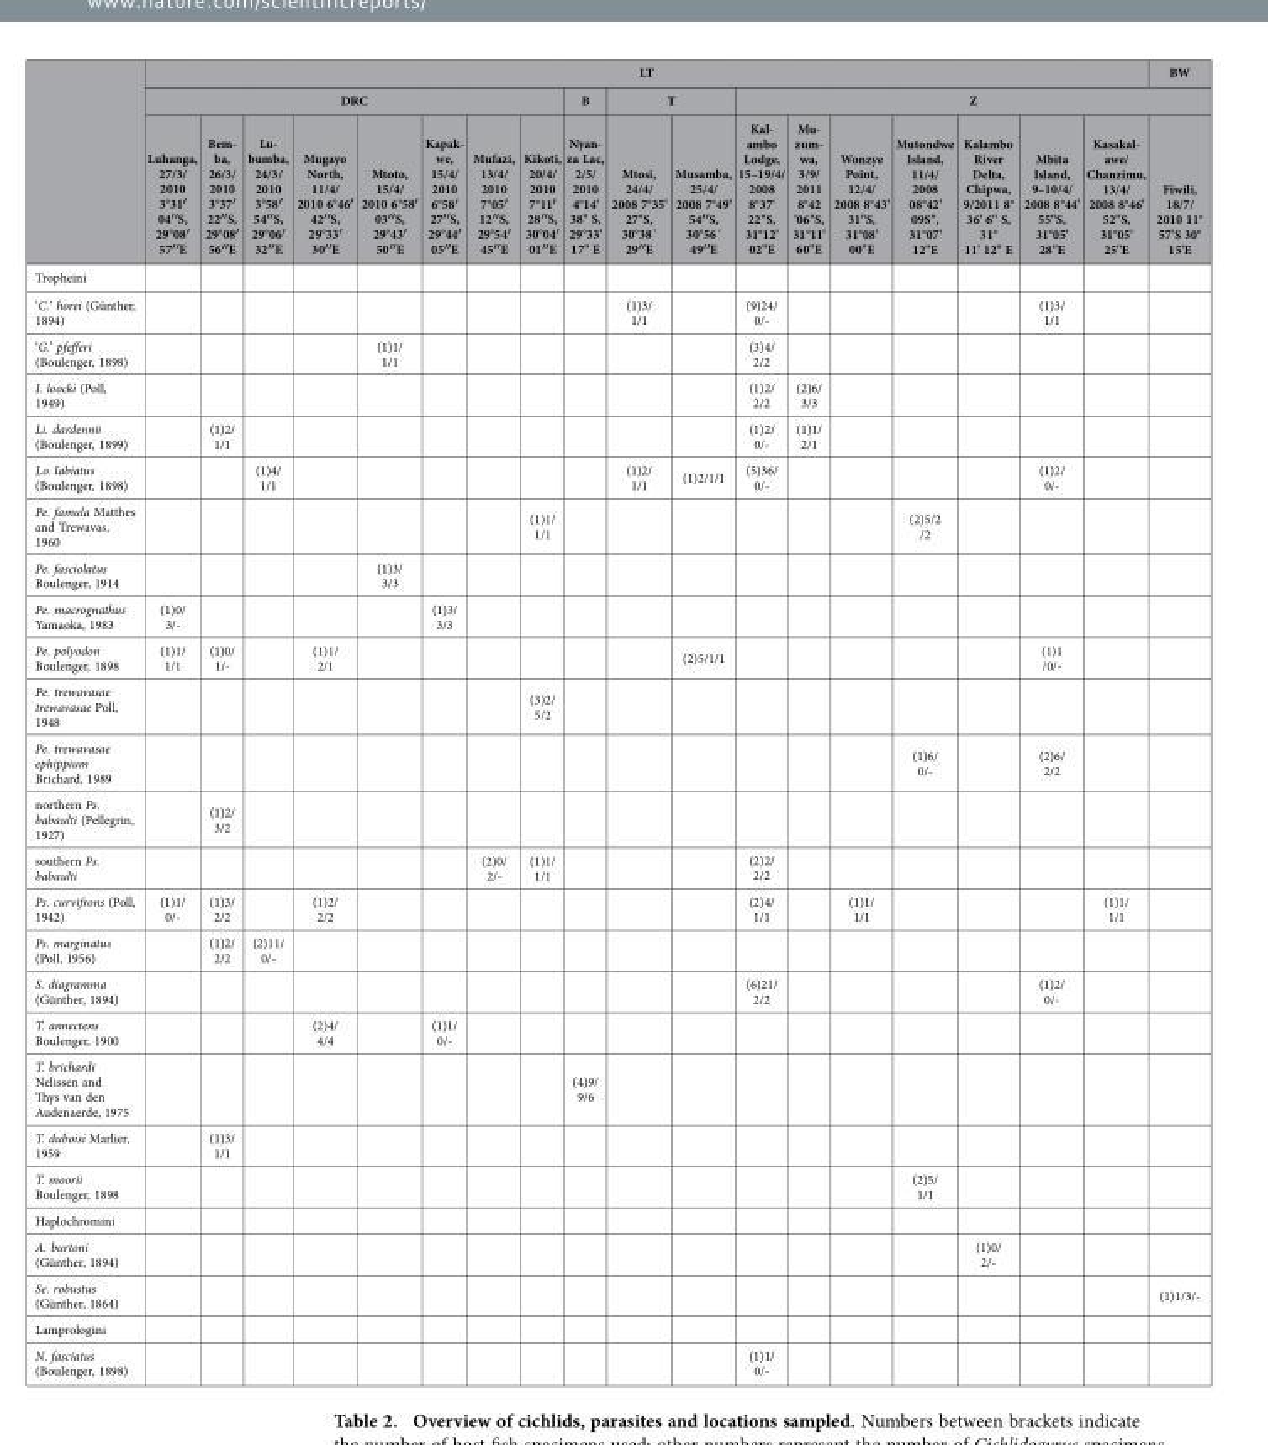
<table><thead><tr><td rowspan="3"></td><td colspan="18">LT</td><td>BW</td></tr><tr><td colspan="8">DRC</td><td rowspan="2">B Nyan- za Lac, 2/5/ 2010 4°14&#x27; 38&quot; S, 29°33&#x27; 17&quot; E</td><td colspan="2">T</td><td colspan="8">Z</td></tr><tr><td>Luhanga, 27/3/ 2010 3°31′ 04′′S, 29°08′ 57′′E</td><td>Bem- ba, 26/3/ 2010 3°37′ 22′′S, 29°08′ 56′′E</td><td>Lu- bumba, 24/3/ 2010 3°58′ 54′′S, 29°06′ 32′′E</td><td>Mugayo North, 11/4/ 2010 6°46′ 42′′S, 29°33′ 30′′E</td><td>Mtoto, 15/4/ 2010 6°58′ 03′′S, 29°43′ 50′′E</td><td>Kapak- we, 15/4/ 2010 6°58′ 27′′S, 29°44′ 05′′E</td><td>Mufazi, 13/4/ 2010 7°05′ 12′′S, 29°54′ 45′′E</td><td>Kikoti, 20/4/ 2010 7°11′ 28′′S, 30°04′ 01′′E</td><td>Mtosi, 24/4/ 2008 7°35&#x27; 27&#x27;&#x27;S, 30°38´ 29′′E</td><td>Musamba, 25/4/ 2008 7°49&#x27; 54′′S, 30°56´ 49′′E</td><td>Kal- ambo Lodge, 15–19/4/ 2008 8°37&#x27; 22&#x27;&#x27;S, 31°12&#x27; 02&#x27;&#x27;E</td><td>Mu- zum- wa, 3/9/ 2011 8°42 &#x27;06&quot;S, 31°11&#x27; 60&#x27;&#x27;E</td><td>Wonzye Point, 12/4/ 2008 8°43&#x27; 31&#x27;&#x27;S, 31°08&#x27; 00&#x27;&#x27;E</td><td>Mutondwe Island, 11/4/ 2008 08°42&#x27; 09S&#x27;&#x27;, 31°07&#x27; 12&#x27;&#x27;E</td><td>Kalambo River Delta, Chipwa, 9/2011 8° 36&#x27; 6&#x27;&#x27; S, 31° 11&#x27; 12&#x27;&#x27; E</td><td>Mbita Island, 9–10/4/ 2008 8°44&#x27; 55&#x27;&#x27;S, 31°05&#x27; 28&#x27;&#x27;E</td><td>Kasakal- awe/ Chanzimu, 13/4/ 2008 8°46&#x27; 52&#x27;&#x27;S, 31°05&#x27; 25&#x27;&#x27;E</td><td>Fiwili, 18/7/ 2010 11° 57&#x27;S 30° 15&#x27;E</td></tr></thead><tbody><tr><td colspan="20">Tropheini</td></tr><tr><td>‘C.’ horei (Günther, 1894)</td><td></td><td></td><td></td><td></td><td></td><td></td><td></td><td></td><td></td><td>(1)3/ 1/1</td><td></td><td>(9)24/ 0/-</td><td></td><td></td><td></td><td></td><td>(1)3/ 1/1</td><td></td><td></td></tr><tr><td>‘G.’ pfefferi (Boulenger, 1898)</td><td></td><td></td><td></td><td></td><td>(1)1/ 1/1</td><td></td><td></td><td></td><td></td><td></td><td></td><td>(3)4/ 2/2</td><td></td><td></td><td></td><td></td><td></td><td></td><td></td></tr><tr><td>I. loocki (Poll, 1949)</td><td></td><td></td><td></td><td></td><td></td><td></td><td></td><td></td><td></td><td></td><td></td><td>(1)2/ 2/2</td><td>(2)6/ 3/3</td><td></td><td></td><td></td><td></td><td></td><td></td></tr><tr><td>Li. dardennii (Boulenger, 1899)</td><td></td><td>(1)2/ 1/1</td><td></td><td></td><td></td><td></td><td></td><td></td><td></td><td></td><td></td><td>(1)2/ 0/-</td><td>(1)1/ 2/1</td><td></td><td></td><td></td><td></td><td></td><td></td></tr><tr><td>Lo. labiatus (Boulenger, 1898)</td><td></td><td></td><td>(1)4/ 1/1</td><td></td><td></td><td></td><td></td><td></td><td></td><td>(1)2/ 1/1</td><td>(1)2/1/1</td><td>(5)36/ 0/-</td><td></td><td></td><td></td><td></td><td>(1)2/ 0/-</td><td></td><td></td></tr><tr><td>Pe. famula Matthes and Trewavas, 1960</td><td></td><td></td><td></td><td></td><td></td><td></td><td></td><td>(1)1/ 1/1</td><td></td><td></td><td></td><td></td><td></td><td></td><td>(2)5/2 /2</td><td></td><td></td><td></td><td></td></tr><tr><td>Pe. fasciolatus Boulenger, 1914</td><td></td><td></td><td></td><td></td><td>(1)3/ 3/3</td><td></td><td></td><td></td><td></td><td></td><td></td><td></td><td></td><td></td><td></td><td></td><td></td><td></td><td></td></tr><tr><td>Pe. macrognathus Yamaoka, 1983</td><td>(1)0/ 3/-</td><td></td><td></td><td></td><td></td><td>(1)3/ 3/3</td><td></td><td></td><td></td><td></td><td></td><td></td><td></td><td></td><td></td><td></td><td></td><td></td><td></td></tr><tr><td>Pe. polyodon Boulenger, 1898</td><td>(1)1/ 1/1</td><td>(1)0/ 1/-</td><td></td><td>(1)1/ 2/1</td><td></td><td></td><td></td><td></td><td></td><td></td><td>(2)5/1/1</td><td></td><td></td><td></td><td></td><td></td><td>(1)1 /0/-</td><td></td><td></td></tr><tr><td>Pe. trewavasae trewavasae Poll, 1948</td><td></td><td></td><td></td><td></td><td></td><td></td><td></td><td>(3)2/ 5/2</td><td></td><td></td><td></td><td></td><td></td><td></td><td></td><td></td><td></td><td></td><td></td></tr><tr><td>Pe. trewavasae ephippium Brichard, 1989</td><td></td><td></td><td></td><td></td><td></td><td></td><td></td><td></td><td></td><td></td><td></td><td></td><td></td><td></td><td>(1)6/ 0/-</td><td></td><td>(2)6/ 2/2</td><td></td><td></td></tr><tr><td>northern Ps. babaulti (Pellegrin, 1927)</td><td></td><td>(1)2/ 3/2</td><td></td><td></td><td></td><td></td><td></td><td></td><td></td><td></td><td></td><td></td><td></td><td></td><td></td><td></td><td></td><td></td><td></td></tr><tr><td>southern Ps. babaulti</td><td></td><td></td><td></td><td></td><td></td><td></td><td>(2)0/ 2/-</td><td>(1)1/ 1/1</td><td></td><td></td><td></td><td>(2)2/ 2/2</td><td></td><td></td><td></td><td></td><td></td><td></td><td></td></tr><tr><td>Ps. curvifrons (Poll, 1942)</td><td>(1)1/ 0/-</td><td>(1)3/ 2/2</td><td></td><td>(1)2/ 2/2</td><td></td><td></td><td></td><td></td><td></td><td></td><td></td><td>(2)4/ 1/1</td><td></td><td>(1)1/ 1/1</td><td></td><td></td><td></td><td>(1)1/ 1/1</td><td></td></tr><tr><td>Ps. marginatus (Poll, 1956)</td><td></td><td>(1)2/ 2/2</td><td>(2)11/ 0/-</td><td></td><td></td><td></td><td></td><td></td><td></td><td></td><td></td><td></td><td></td><td></td><td></td><td></td><td></td><td></td><td></td></tr><tr><td>S. diagramma (Günther, 1894)</td><td></td><td></td><td></td><td></td><td></td><td></td><td></td><td></td><td></td><td></td><td></td><td>(6)21/ 2/2</td><td></td><td></td><td></td><td></td><td>(1)2/ 0/-</td><td></td><td></td></tr><tr><td>T. annectens Boulenger, 1900</td><td></td><td></td><td></td><td>(2)4/ 4/4</td><td></td><td>(1)1/ 0/-</td><td></td><td></td><td></td><td></td><td></td><td></td><td></td><td></td><td></td><td></td><td></td><td></td><td></td></tr><tr><td>T. brichardi Nelissen and Thys van den Audenaerde, 1975</td><td></td><td></td><td></td><td></td><td></td><td></td><td></td><td></td><td>(4)9/ 9/6</td><td></td><td></td><td></td><td></td><td></td><td></td><td></td><td></td><td></td><td></td></tr><tr><td>T. duboisi Marlier, 1959</td><td></td><td>(1)3/ 1/1</td><td></td><td></td><td></td><td></td><td></td><td></td><td></td><td></td><td></td><td></td><td></td><td></td><td></td><td></td><td></td><td></td><td></td></tr><tr><td>T. moorii Boulenger, 1898</td><td></td><td></td><td></td><td></td><td></td><td></td><td></td><td></td><td></td><td></td><td></td><td></td><td></td><td></td><td>(2)5/ 1/1</td><td></td><td></td><td></td><td></td></tr><tr><td colspan="20">Haplochromini</td></tr><tr><td>A. burtoni (Günther, 1894)</td><td></td><td></td><td></td><td></td><td></td><td></td><td></td><td></td><td></td><td></td><td></td><td></td><td></td><td></td><td></td><td>(1)0/ 2/-</td><td></td><td></td><td></td></tr><tr><td>Se. robustus (Günther, 1864)</td><td></td><td></td><td></td><td></td><td></td><td></td><td></td><td></td><td></td><td></td><td></td><td></td><td></td><td></td><td></td><td></td><td></td><td></td><td>(1)1/3/-</td></tr><tr><td colspan="20">Lamprologini</td></tr><tr><td>N. fasciatus (Boulenger, 1898)</td><td></td><td></td><td></td><td></td><td></td><td></td><td></td><td></td><td></td><td></td><td></td><td>(1)1/ 0/-</td><td></td><td></td><td></td><td></td><td></td><td></td><td></td></tr></tbody></table>